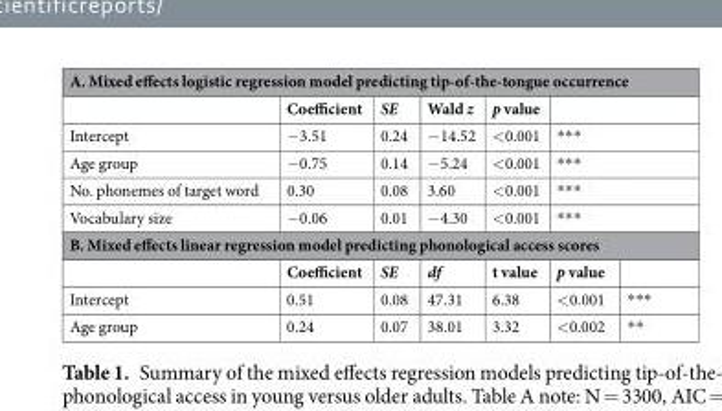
<table><thead><tr><td colspan="7">A. Mixed effects logistic regression model predicting tip-of-the-tongue occurrence</td></tr></thead><tbody><tr><td></td><td>Coefficient</td><td>SE</td><td>Wald z</td><td>p value</td><td colspan="2"></td></tr><tr><td>Intercept</td><td>−3.51</td><td>0.24</td><td>−14.52</td><td>&lt;0.001</td><td colspan="2">***</td></tr><tr><td>Age group</td><td>−0.75</td><td>0.14</td><td>−5.24</td><td>&lt;0.001</td><td colspan="2">***</td></tr><tr><td>No. phonemes of target word</td><td>0.30</td><td>0.08</td><td>3.60</td><td>&lt;0.001</td><td colspan="2">***</td></tr><tr><td>Vocabulary size</td><td>−0.06</td><td>0.01</td><td>−4.30</td><td>&lt;0.001</td><td colspan="2">***</td></tr><tr><td colspan="7">B. Mixed effects linear regression model predicting phonological access scores</td></tr><tr><td></td><td>Coefficient</td><td>SE</td><td>df</td><td>t value</td><td>p value</td><td></td></tr><tr><td>Intercept</td><td>0.51</td><td>0.08</td><td>47.31</td><td>6.38</td><td>&lt;0.001</td><td>***</td></tr><tr><td>Age group</td><td>0.24</td><td>0.07</td><td>38.01</td><td>3.32</td><td>&lt;0.002</td><td>**</td></tr></tbody></table>